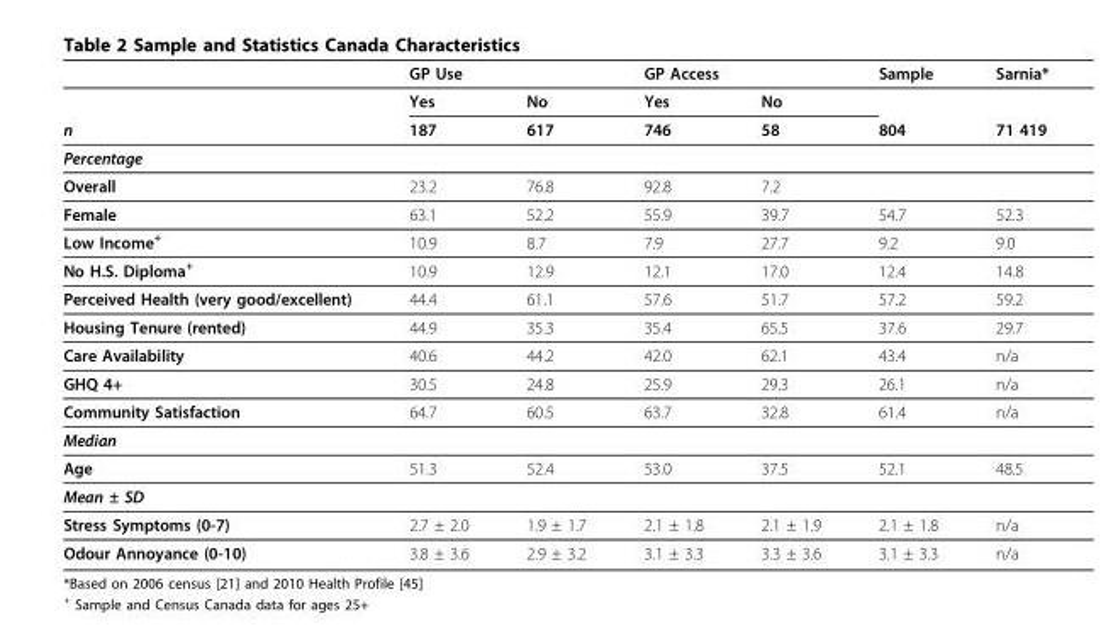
<table><thead><tr><td rowspan="2"></td><td colspan="2">GP Use</td><td colspan="2">GP Access</td><td rowspan="2">Sample</td><td rowspan="2">Sarnia*</td></tr><tr><td>Yes</td><td>No</td><td>Yes</td><td>No</td></tr></thead><tbody><tr><td>n</td><td>187</td><td>617</td><td>746</td><td>58</td><td>804</td><td>71 419</td></tr><tr><td colspan="7">Percentage</td></tr><tr><td>Overall</td><td>23.2</td><td>76.8</td><td>92.8</td><td>7.2</td><td></td><td></td></tr><tr><td>Female</td><td>63.1</td><td>52.2</td><td>55.9</td><td>39.7</td><td>54.7</td><td>52.3</td></tr><tr><td>Low Income<sup>+</sup></td><td>10.9</td><td>8.7</td><td>7.9</td><td>27.7</td><td>9.2</td><td>9.0</td></tr><tr><td>No H.S. Diploma<sup>+</sup></td><td>10.9</td><td>12.9</td><td>12.1</td><td>17.0</td><td>12.4</td><td>14.8</td></tr><tr><td>Perceived Health (very good/excellent)</td><td>44.4</td><td>61.1</td><td>57.6</td><td>51.7</td><td>57.2</td><td>59.2</td></tr><tr><td>Housing Tenure (rented)</td><td>44.9</td><td>35.3</td><td>35.4</td><td>65.5</td><td>37.6</td><td>29.7</td></tr><tr><td>Care Availability</td><td>40.6</td><td>44.2</td><td>42.0</td><td>62.1</td><td>43.4</td><td>n/a</td></tr><tr><td>GHQ 4+</td><td>30.5</td><td>24.8</td><td>25.9</td><td>29.3</td><td>26.1</td><td>n/a</td></tr><tr><td>Community Satisfaction</td><td>64.7</td><td>60.5</td><td>63.7</td><td>32.8</td><td>61.4</td><td>n/a</td></tr><tr><td colspan="7">Median</td></tr><tr><td>Age</td><td>51.3</td><td>52.4</td><td>53.0</td><td>37.5</td><td>52.1</td><td>48.5</td></tr><tr><td colspan="7">Mean ± SD</td></tr><tr><td>Stress Symptoms (0-7)</td><td>2.7 ± 2.0</td><td>1.9 ± 1.7</td><td>2.1 ± 1.8</td><td>2.1 ± 1.9</td><td>2.1 ± 1.8</td><td>n/a</td></tr><tr><td>Odour Annoyance (0-10)</td><td>3.8 ± 3.6</td><td>2.9 ± 3.2</td><td>3.1 ± 3.3</td><td>3.3 ± 3.6</td><td>3.1 ± 3.3</td><td>n/a</td></tr></tbody></table>